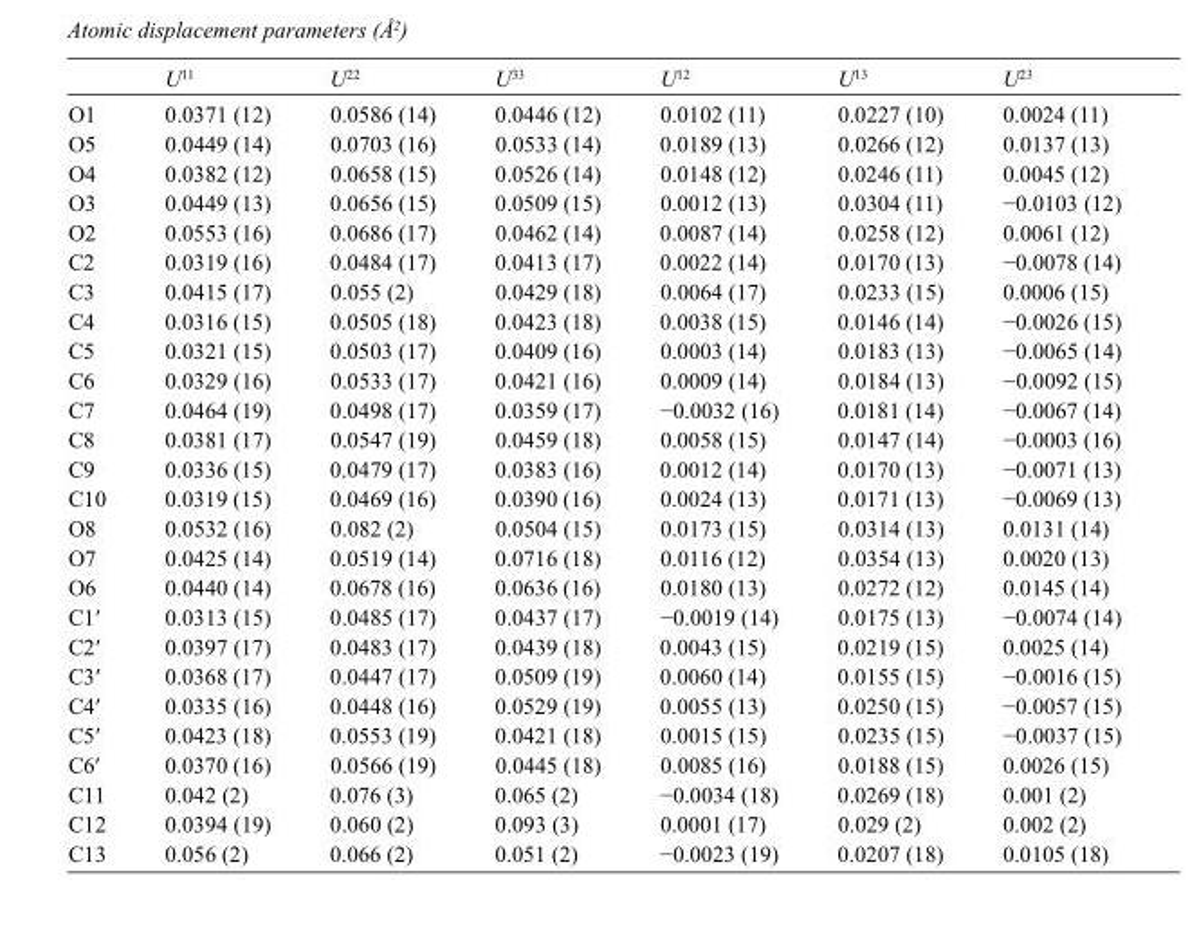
<table><thead><tr><td></td><td>U<sup>11</sup></td><td>U<sup>22</sup></td><td>U<sup>33</sup></td><td>U<sup>12</sup></td><td>U<sup>13</sup></td><td>U<sup>23</sup></td></tr></thead><tbody><tr><td>O1</td><td>0.0371 (12)</td><td>0.0586 (14)</td><td>0.0446 (12)</td><td>0.0102 (11)</td><td>0.0227 (10)</td><td>0.0024 (11)</td></tr><tr><td>O5</td><td>0.0449 (14)</td><td>0.0703 (16)</td><td>0.0533 (14)</td><td>0.0189 (13)</td><td>0.0266 (12)</td><td>0.0137 (13)</td></tr><tr><td>O4</td><td>0.0382 (12)</td><td>0.0658 (15)</td><td>0.0526 (14)</td><td>0.0148 (12)</td><td>0.0246 (11)</td><td>0.0045 (12)</td></tr><tr><td>O3</td><td>0.0449 (13)</td><td>0.0656 (15)</td><td>0.0509 (15)</td><td>0.0012 (13)</td><td>0.0304 (11)</td><td>−0.0103 (12)</td></tr><tr><td>O2</td><td>0.0553 (16)</td><td>0.0686 (17)</td><td>0.0462 (14)</td><td>0.0087 (14)</td><td>0.0258 (12)</td><td>0.0061 (12)</td></tr><tr><td>C2</td><td>0.0319 (16)</td><td>0.0484 (17)</td><td>0.0413 (17)</td><td>0.0022 (14)</td><td>0.0170 (13)</td><td>−0.0078 (14)</td></tr><tr><td>C3</td><td>0.0415 (17)</td><td>0.055 (2)</td><td>0.0429 (18)</td><td>0.0064 (17)</td><td>0.0233 (15)</td><td>0.0006 (15)</td></tr><tr><td>C4</td><td>0.0316 (15)</td><td>0.0505 (18)</td><td>0.0423 (18)</td><td>0.0038 (15)</td><td>0.0146 (14)</td><td>−0.0026 (15)</td></tr><tr><td>C5</td><td>0.0321 (15)</td><td>0.0503 (17)</td><td>0.0409 (16)</td><td>0.0003 (14)</td><td>0.0183 (13)</td><td>−0.0065 (14)</td></tr><tr><td>C6</td><td>0.0329 (16)</td><td>0.0533 (17)</td><td>0.0421 (16)</td><td>0.0009 (14)</td><td>0.0184 (13)</td><td>−0.0092 (15)</td></tr><tr><td>C7</td><td>0.0464 (19)</td><td>0.0498 (17)</td><td>0.0359 (17)</td><td>−0.0032 (16)</td><td>0.0181 (14)</td><td>−0.0067 (14)</td></tr><tr><td>C8</td><td>0.0381 (17)</td><td>0.0547 (19)</td><td>0.0459 (18)</td><td>0.0058 (15)</td><td>0.0147 (14)</td><td>−0.0003 (16)</td></tr><tr><td>C9</td><td>0.0336 (15)</td><td>0.0479 (17)</td><td>0.0383 (16)</td><td>0.0012 (14)</td><td>0.0170 (13)</td><td>−0.0071 (13)</td></tr><tr><td>C10</td><td>0.0319 (15)</td><td>0.0469 (16)</td><td>0.0390 (16)</td><td>0.0024 (13)</td><td>0.0171 (13)</td><td>−0.0069 (13)</td></tr><tr><td>O8</td><td>0.0532 (16)</td><td>0.082 (2)</td><td>0.0504 (15)</td><td>0.0173 (15)</td><td>0.0314 (13)</td><td>0.0131 (14)</td></tr><tr><td>O7</td><td>0.0425 (14)</td><td>0.0519 (14)</td><td>0.0716 (18)</td><td>0.0116 (12)</td><td>0.0354 (13)</td><td>0.0020 (13)</td></tr><tr><td>O6</td><td>0.0440 (14)</td><td>0.0678 (16)</td><td>0.0636 (16)</td><td>0.0180 (13)</td><td>0.0272 (12)</td><td>0.0145 (14)</td></tr><tr><td>C1′</td><td>0.0313 (15)</td><td>0.0485 (17)</td><td>0.0437 (17)</td><td>−0.0019 (14)</td><td>0.0175 (13)</td><td>−0.0074 (14)</td></tr><tr><td>C2′</td><td>0.0397 (17)</td><td>0.0483 (17)</td><td>0.0439 (18)</td><td>0.0043 (15)</td><td>0.0219 (15)</td><td>0.0025 (14)</td></tr><tr><td>C3′</td><td>0.0368 (17)</td><td>0.0447 (17)</td><td>0.0509 (19)</td><td>0.0060 (14)</td><td>0.0155 (15)</td><td>−0.0016 (15)</td></tr><tr><td>C4′</td><td>0.0335 (16)</td><td>0.0448 (16)</td><td>0.0529 (19)</td><td>0.0055 (13)</td><td>0.0250 (15)</td><td>−0.0057 (15)</td></tr><tr><td>C5′</td><td>0.0423 (18)</td><td>0.0553 (19)</td><td>0.0421 (18)</td><td>0.0015 (15)</td><td>0.0235 (15)</td><td>−0.0037 (15)</td></tr><tr><td>C6′</td><td>0.0370 (16)</td><td>0.0566 (19)</td><td>0.0445 (18)</td><td>0.0085 (16)</td><td>0.0188 (15)</td><td>0.0026 (15)</td></tr><tr><td>C11</td><td>0.042 (2)</td><td>0.076 (3)</td><td>0.065 (2)</td><td>−0.0034 (18)</td><td>0.0269 (18)</td><td>0.001 (2)</td></tr><tr><td>C12</td><td>0.0394 (19)</td><td>0.060 (2)</td><td>0.093 (3)</td><td>0.0001 (17)</td><td>0.029 (2)</td><td>0.002 (2)</td></tr><tr><td>C13</td><td>0.056 (2)</td><td>0.066 (2)</td><td>0.051 (2)</td><td>−0.0023 (19)</td><td>0.0207 (18)</td><td>0.0105 (18)</td></tr></tbody></table>